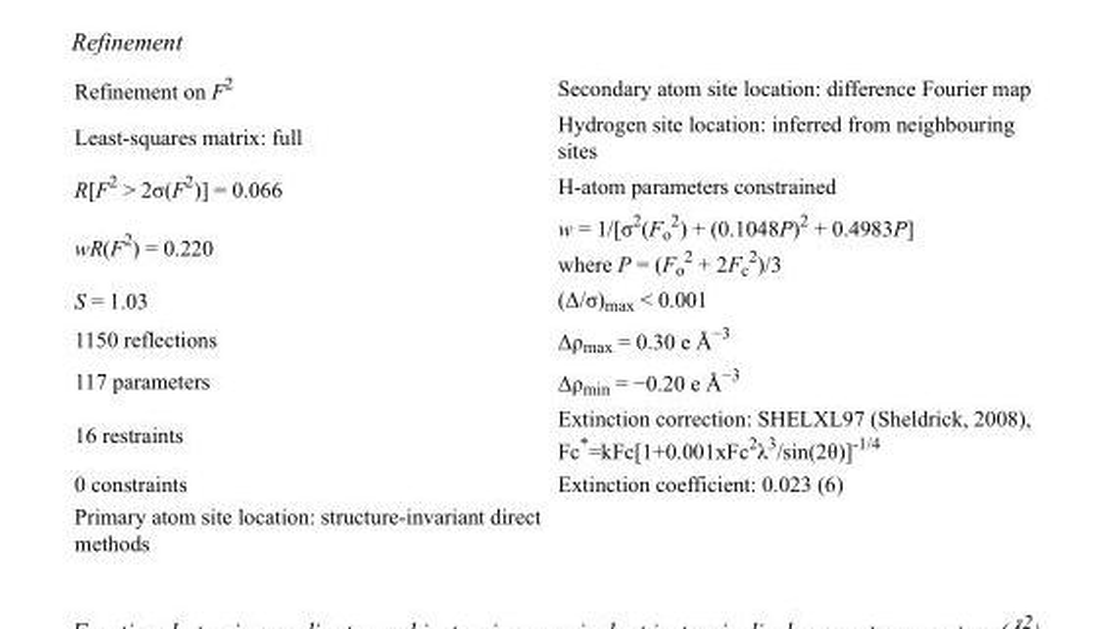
<table><tbody><tr><td>Refinement on F<sup>2</sup></td><td>Secondary atom site location: difference Fourier map</td></tr><tr><td>Least-squares matrix: full</td><td>Hydrogen site location: inferred from neighbouring sites</td></tr><tr><td>R[F<sup>2</sup> &gt; 2σ(F<sup>2</sup>)] = 0.066</td><td>H-atom parameters constrained</td></tr><tr><td>wR(F<sup>2</sup>) = 0.220</td><td>w = 1/[σ<sup>2</sup>(F<sub>o</sub> <sup>2</sup>) + (0.1048P)<sup>2</sup> + 0.4983P] where P = (F<sub>o</sub> <sup>2</sup> + 2F<sub>c</sub> <sup>2</sup>)/3</td></tr><tr><td>S = 1.03</td><td>(Δ/σ)<sub>max</sub> &lt; 0.001</td></tr><tr><td>1150 reflections</td><td>Δρ<sub>max</sub> = 0.30 e Å<sup>−3</sup></td></tr><tr><td>117 parameters</td><td>Δρ<sub>min</sub> = −0.20 e Å<sup>−3</sup></td></tr><tr><td>16 restraints</td><td>Extinction correction: SHELXL97 (Sheldrick, 2008), Fc*=kFc[1+0.001xFc<sup>2</sup>λ<sup>3</sup>/sin(2θ)]<sup>-1/4</sup></td></tr><tr><td>0 constraints</td><td>Extinction coefficient: 0.023 (6)</td></tr><tr><td>Primary atom site location: structure-invariant direct methods</td><td></td></tr></tbody></table>